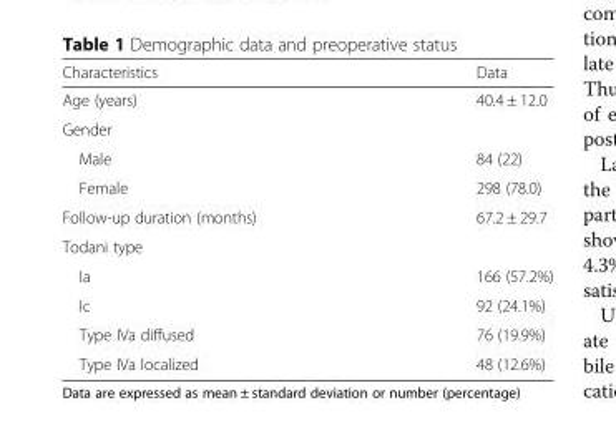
<table><thead><tr><td>Characteristics</td><td>Data</td></tr></thead><tbody><tr><td>Age (years)</td><td>40.4 ± 12.0</td></tr><tr><td colspan="2">Gender</td></tr><tr><td>Male</td><td>84 (22)</td></tr><tr><td>Female</td><td>298 (78.0)</td></tr><tr><td>Follow-up duration (months)</td><td>67.2 ± 29.7</td></tr><tr><td colspan="2">Todani type</td></tr><tr><td>Ia</td><td>166 (57.2%)</td></tr><tr><td>Ic</td><td>92 (24.1%)</td></tr><tr><td>Type IVa diffused</td><td>76 (19.9%)</td></tr><tr><td>Type IVa localized</td><td>48 (12.6%)</td></tr></tbody></table>